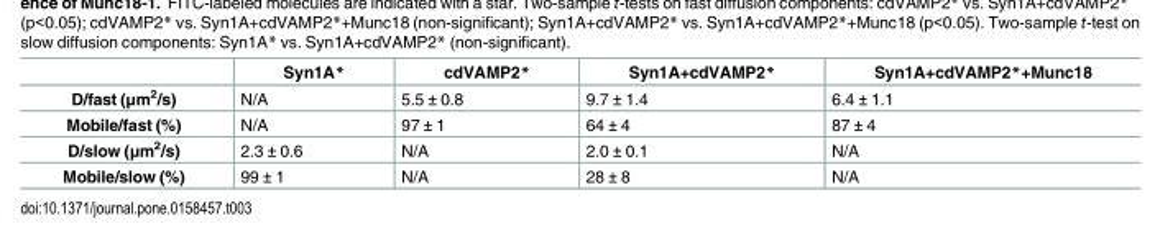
<table><thead><tr><td></td><td>Syn1A*</td><td>cdVAMP2*</td><td>Syn1A+cdVAMP2*</td><td>Syn1A+cdVAMP2*+Munc18</td></tr></thead><tbody><tr><td>D/fast (μm<sup>2</sup>/s)</td><td>N/A</td><td>5.5 ± 0.8</td><td>9.7 ± 1.4</td><td>6.4 ± 1.1</td></tr><tr><td>Mobile/fast (%)</td><td>N/A</td><td>97 ± 1</td><td>64 ± 4</td><td>87 ± 4</td></tr><tr><td>D/slow (μm<sup>2</sup>/s)</td><td>2.3 ± 0.6</td><td>N/A</td><td>2.0 ± 0.1</td><td>N/A</td></tr><tr><td>Mobile/slow (%)</td><td>99 ± 1</td><td>N/A</td><td>28 ± 8</td><td>N/A</td></tr></tbody></table>